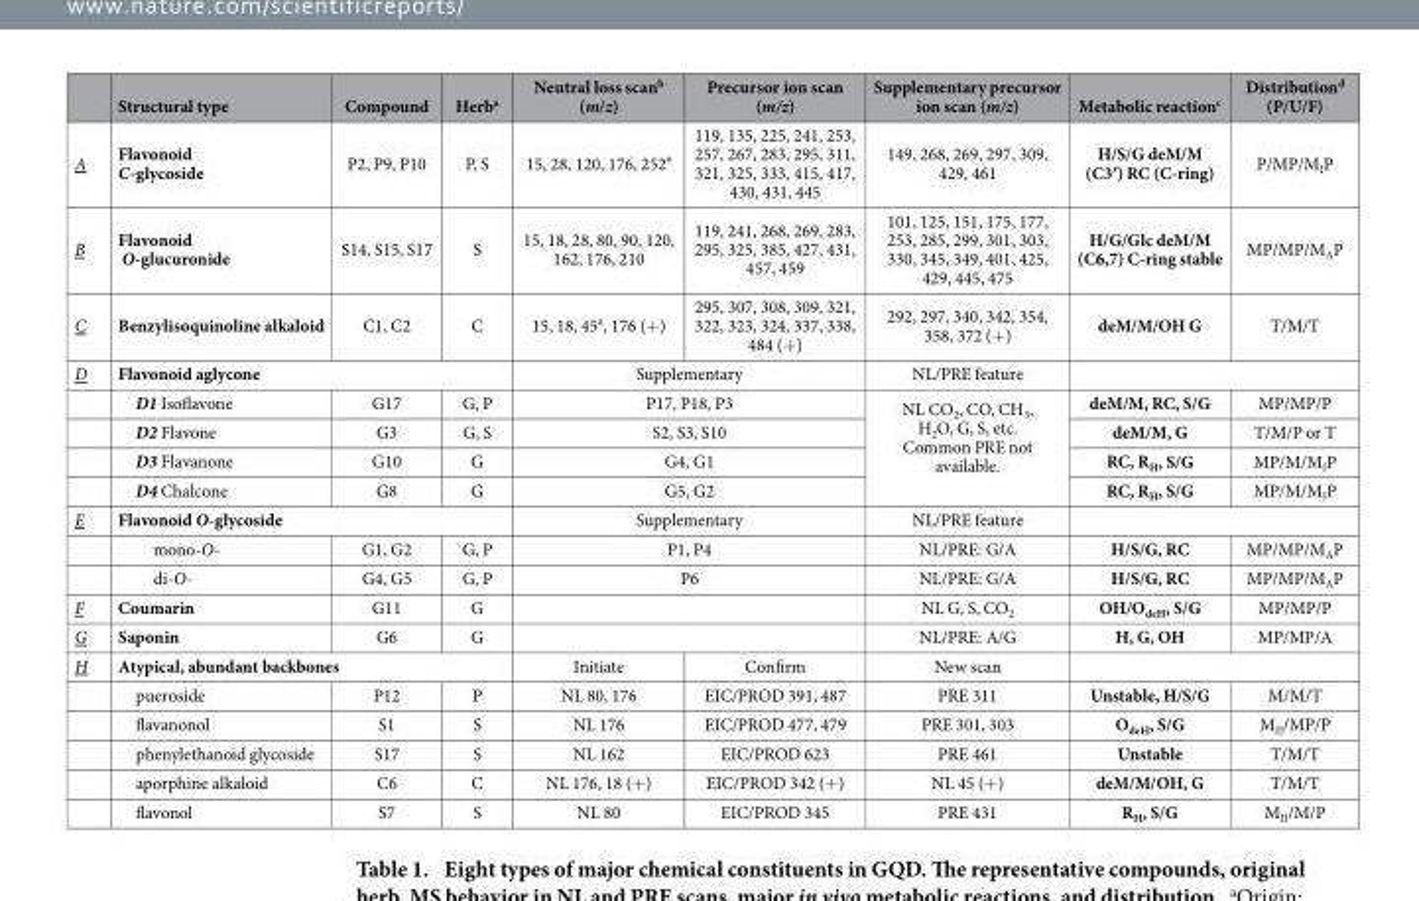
<table><thead><tr><td></td><td>Structural type</td><td>Compound</td><td>Herb<sup>a</sup></td><td>Neutral loss scan<sup>b</sup> (m/z)</td><td>Precursor ion scan (m/z)</td><td>Supplementary precursor ion scan (m/z)</td><td>Metabolic reaction<sup>c</sup></td><td>Distribution<sup>d</sup> (P/U/F)</td></tr></thead><tbody><tr><td>A</td><td>Flavonoid C-glycoside</td><td>P2, P9, P10</td><td>P, S</td><td>15, 28, 120, 176, 252<sup>#</sup></td><td>119, 135, 225, 241, 253, 257, 267, 283, 295, 311, 321, 325, 333, 415, 417, 430, 431, 445</td><td>149, 268, 269, 297, 309, 429, 461</td><td>H/S/G deM/M (C3′) RC (C-ring)</td><td>P/MP/M<sub>I</sub>P</td></tr><tr><td>B</td><td>Flavonoid O-glucuronide</td><td>S14, S15, S17</td><td>S</td><td>15, 18, 28, 80, 90, 120, 162, 176, 210</td><td>119, 241, 268, 269, 283, 295, 325, 385, 427, 431, 457, 459</td><td>101, 125, 151, 175, 177, 253, 285, 299, 301, 303, 330, 345, 349, 401, 425, 429, 445, 475</td><td>H/G/Glc deM/M (C6,7) C-ring stable</td><td>MP/MP/M<sub>A</sub>P</td></tr><tr><td>C</td><td>Benzylisoquinoline alkaloid</td><td>C1, C2</td><td>C</td><td>15, 18, 45<sup>#</sup>, 176 (+ )</td><td>295, 307, 308, 309, 321, 322, 323, 324, 337, 338, 484 (+ )</td><td>292, 297, 340, 342, 354, 358, 372 (+ )</td><td>deM/M/OH G</td><td>T/M/T</td></tr><tr><td rowspan="5">D</td><td colspan="3">Flavonoid aglycone</td><td colspan="2">Supplementary</td><td>NL/PRE feature</td><td colspan="2"></td></tr><tr><td>D1 Isoflavone</td><td>G17</td><td>G, P</td><td colspan="2">P17, P18, P3</td><td rowspan="4">NL CO<sub>2</sub>, CO, CH<sub>3</sub>, H<sub>2</sub>O, G, S, etc. Common PRE not available.</td><td>deM/M, RC, S/G</td><td>MP/MP/P</td></tr><tr><td>D2 Flavone</td><td>G3</td><td>G, S</td><td colspan="2">S2, S3, S10</td><td>deM/M, G</td><td>T/M/P or T</td></tr><tr><td>D3 Flavanone</td><td>G10</td><td>G</td><td colspan="2">G4, G1</td><td>RC, R<sub>H</sub>, S/G</td><td>MP/M/M<sub>I</sub>P</td></tr><tr><td>D4 Chalcone</td><td>G8</td><td>G</td><td colspan="2">G5, G2</td><td>RC, R<sub>H</sub>, S/G</td><td>MP/M/M<sub>I</sub>P</td></tr><tr><td rowspan="3">E</td><td colspan="3">Flavonoid O-glycoside</td><td colspan="2">Supplementary</td><td>NL/PRE feature</td><td colspan="2"></td></tr><tr><td>mono-O-</td><td>G1, G2</td><td>G, P</td><td colspan="2">P1, P4</td><td>NL/PRE: G/A</td><td>H/S/G, RC</td><td>MP/MP/M<sub>A</sub>P</td></tr><tr><td>di-O-</td><td>G4, G5</td><td>G, P</td><td colspan="2">P6</td><td>NL/PRE: G/A</td><td>H/S/G, RC</td><td>MP/MP/M<sub>A</sub>P</td></tr><tr><td>F</td><td>Coumarin</td><td>G11</td><td>G</td><td colspan="2"></td><td>NL G, S, CO<sub>2</sub></td><td>OH/O<sub>deH</sub>, S/G</td><td>MP/MP/P</td></tr><tr><td>G</td><td>Saponin</td><td>G6</td><td>G</td><td colspan="2"></td><td>NL/PRE: A/G</td><td>H, G, OH</td><td>MP/MP/A</td></tr><tr><td rowspan="6">H</td><td colspan="3">Atypical, abundant backbones</td><td>Initiate</td><td>Confirm</td><td>New scan</td><td colspan="2"></td></tr><tr><td>pueroside</td><td>P12</td><td>P</td><td>NL 80, 176</td><td>EIC/PROD 391, 487</td><td>PRE 311</td><td>Unstable, H/S/G</td><td>M/M/T</td></tr><tr><td>flavanonol</td><td>S1</td><td>S</td><td>NL 176</td><td>EIC/PROD 477, 479</td><td>PRE 301, 303</td><td>O<sub>deH</sub>, S/G</td><td>M<sub>II</sub>/MP/P</td></tr><tr><td>phenylethanoid glycoside</td><td>S17</td><td>S</td><td>NL 162</td><td>EIC/PROD 623</td><td>PRE 461</td><td>Unstable</td><td>T/M/T</td></tr><tr><td>aporphine alkaloid</td><td>C6</td><td>C</td><td>NL 176, 18 (+ )</td><td>EIC/PROD 342 (+ )</td><td>NL 45 (+ )</td><td>deM/M/OH, G</td><td>T/M/T</td></tr><tr><td>flavonol</td><td>S7</td><td>S</td><td>NL 80</td><td>EIC/PROD 345</td><td>PRE 431</td><td>R<sub>H</sub>, S/G</td><td>M<sub>II</sub>/M/P</td></tr></tbody></table>